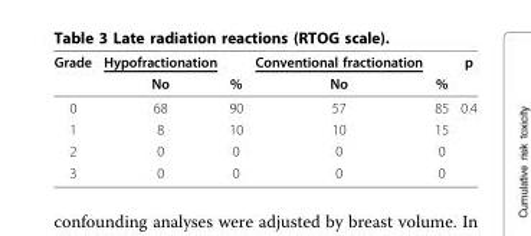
<table><thead><tr><td rowspan="2">Grade</td><td rowspan="2">Hypofractionation No</td><td rowspan="2">%</td><td rowspan="2">Conventional fractionation No</td><td rowspan="2">%</td><td rowspan="2">p</td></tr><tr></tr></thead><tbody><tr><td>0</td><td>68</td><td>90</td><td>57</td><td>85</td><td>0.4</td></tr><tr><td>1</td><td>8</td><td>10</td><td>10</td><td>15</td><td></td></tr><tr><td>2</td><td>0</td><td>0</td><td>0</td><td>0</td><td></td></tr><tr><td>3</td><td>0</td><td>0</td><td>0</td><td>0</td><td></td></tr></tbody></table>